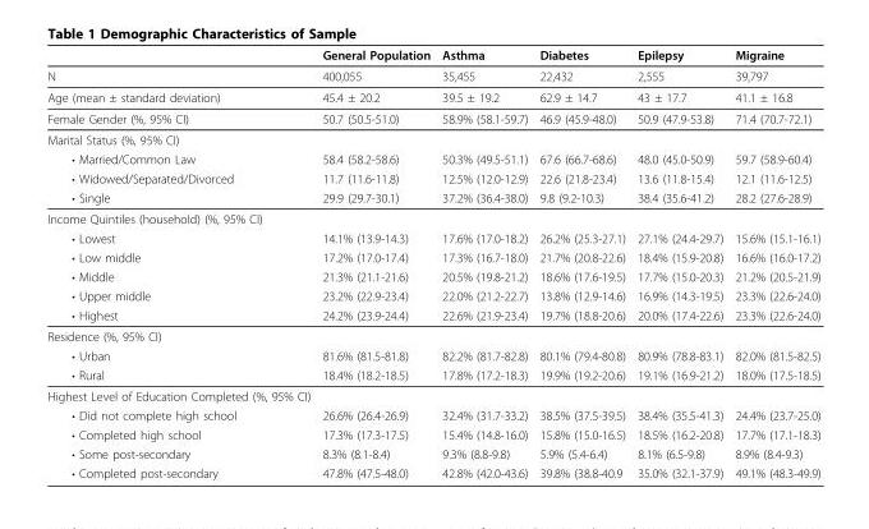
<table><thead><tr><td></td><td>General Population</td><td>Asthma</td><td>Diabetes</td><td>Epilepsy</td><td>Migraine</td></tr></thead><tbody><tr><td>N</td><td>400,055</td><td>35,455</td><td>22,432</td><td>2,555</td><td>39,797</td></tr><tr><td>Age (mean ± standard deviation)</td><td>45.4 ± 20.2</td><td>39.5 ± 19.2</td><td>62.9 ± 14.7</td><td>43 ± 17.7</td><td>41.1 ± 16.8</td></tr><tr><td>Female Gender (%, 95% CI)</td><td>50.7 (50.5-51.0)</td><td>58.9% (58.1-59.7)</td><td>46.9 (45.9-48.0)</td><td>50.9 (47.9-53.8)</td><td>71.4 (70.7-72.1)</td></tr><tr><td colspan="6">Marital Status (%, 95% CI)</td></tr><tr><td>• Married/Common Law</td><td>58.4 (58.2-58.6)</td><td>50.3% (49.5-51.1)</td><td>67.6 (66.7-68.6)</td><td>48.0 (45.0-50.9)</td><td>59.7 (58.9-60.4)</td></tr><tr><td>• Widowed/Separated/Divorced</td><td>11.7 (11.6-11.8)</td><td>12.5% (12.0-12.9)</td><td>22.6 (21.8-23.4)</td><td>13.6 (11.8-15.4)</td><td>12.1 (11.6-12.5)</td></tr><tr><td>• Single</td><td>29.9 (29.7-30.1)</td><td>37.2% (36.4-38.0)</td><td>9.8 (9.2-10.3)</td><td>38.4 (35.6-41.2)</td><td>28.2 (27.6-28.9)</td></tr><tr><td colspan="6">Income Quintiles (household) (%, 95% CI)</td></tr><tr><td>• Lowest</td><td>14.1% (13.9-14.3)</td><td>17.6% (17.0-18.2)</td><td>26.2% (25.3-27.1)</td><td>27.1% (24.4-29.7)</td><td>15.6% (15.1-16.1)</td></tr><tr><td>• Low middle</td><td>17.2% (17.0-17.4)</td><td>17.3% (16.7-18.0)</td><td>21.7% (20.8-22.6)</td><td>18.4% (15.9-20.8)</td><td>16.6% (16.0-17.2)</td></tr><tr><td>• Middle</td><td>21.3% (21.1-21.6)</td><td>20.5% (19.8-21.2)</td><td>18.6% (17.6-19.5)</td><td>17.7% (15.0-20.3)</td><td>21.2% (20.5-21.9)</td></tr><tr><td>• Upper middle</td><td>23.2% (22.9-23.4)</td><td>22.0% (21.2-22.7)</td><td>13.8% (12.9-14.6)</td><td>16.9% (14.3-19.5)</td><td>23.3% (22.6-24.0)</td></tr><tr><td>• Highest</td><td>24.2% (23.9-24.4)</td><td>22.6% (21.9-23.4)</td><td>19.7% (18.8-20.6)</td><td>20.0% (17.4-22.6)</td><td>23.3% (22.6-24.0)</td></tr><tr><td colspan="6">Residence (%, 95% CI)</td></tr><tr><td>• Urban</td><td>81.6% (81.5-81.8)</td><td>82.2% (81.7-82.8)</td><td>80.1% (79.4-80.8)</td><td>80.9% (78.8-83.1)</td><td>82.0% (81.5-82.5)</td></tr><tr><td>• Rural</td><td>18.4% (18.2-18.5)</td><td>17.8% (17.2-18.3)</td><td>19.9% (19.2-20.6)</td><td>19.1% (16.9-21.2)</td><td>18.0% (17.5-18.5)</td></tr><tr><td colspan="6">Highest Level of Education Completed (%, 95% CI)</td></tr><tr><td>• Did not complete high school</td><td>26.6% (26.4-26.9)</td><td>32.4% (31.7-33.2)</td><td>38.5% (37.5-39.5)</td><td>38.4% (35.5-41.3)</td><td>24.4% (23.7-25.0)</td></tr><tr><td>• Completed high school</td><td>17.3% (17.3-17.5)</td><td>15.4% (14.8-16.0)</td><td>15.8% (15.0-16.5)</td><td>18.5% (16.2-20.8)</td><td>17.7% (17.1-18.3)</td></tr><tr><td>• Some post-secondary</td><td>8.3% (8.1-8.4)</td><td>9.3% (8.8-9.8)</td><td>5.9% (5.4-6.4)</td><td>8.1% (6.5-9.8)</td><td>8.9% (8.4-9.3)</td></tr><tr><td>• Completed post-secondary</td><td>47.8% (47.5-48.0)</td><td>42.8% (42.0-43.6)</td><td>39.8% (38.8-40.9</td><td>35.0% (32.1-37.9)</td><td>49.1% (48.3-49.9)</td></tr></tbody></table>